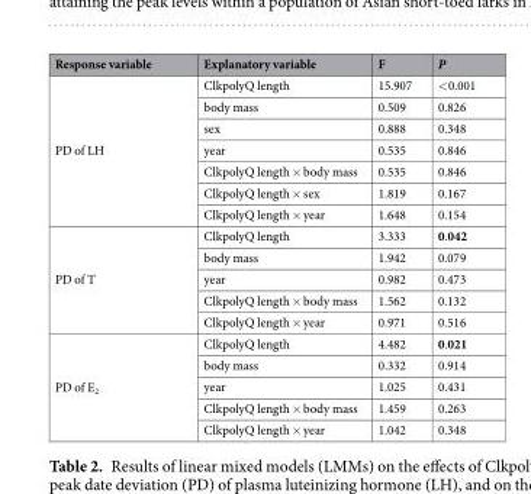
<table><thead><tr><td>Response variable</td><td>Explanatory variable</td><td>F</td><td>P</td></tr></thead><tbody><tr><td rowspan="7">PD of LH</td><td>ClkpolyQ length</td><td>15.907</td><td>&lt;0.001</td></tr><tr><td>body mass</td><td>0.509</td><td>0.826</td></tr><tr><td>sex</td><td>0.888</td><td>0.348</td></tr><tr><td>year</td><td>0.535</td><td>0.846</td></tr><tr><td>ClkpolyQ length × body mass</td><td>0.535</td><td>0.846</td></tr><tr><td>ClkpolyQ length × sex</td><td>1.819</td><td>0.167</td></tr><tr><td>ClkpolyQ length × year</td><td>1.648</td><td>0.154</td></tr><tr><td rowspan="5">PD of T</td><td>ClkpolyQ length</td><td>3.333</td><td>0.042</td></tr><tr><td>body mass</td><td>1.942</td><td>0.079</td></tr><tr><td>year</td><td>0.982</td><td>0.473</td></tr><tr><td>ClkpolyQ length × body mass</td><td>1.562</td><td>0.132</td></tr><tr><td>ClkpolyQ length × year</td><td>0.971</td><td>0.516</td></tr><tr><td rowspan="5">PD of E<sub>2</sub></td><td>ClkpolyQ length</td><td>4.482</td><td>0.021</td></tr><tr><td>body mass</td><td>0.332</td><td>0.914</td></tr><tr><td>year</td><td>1.025</td><td>0.431</td></tr><tr><td>ClkpolyQ length × body mass</td><td>1.459</td><td>0.263</td></tr><tr><td>ClkpolyQ length × year</td><td>1.042</td><td>0.348</td></tr></tbody></table>